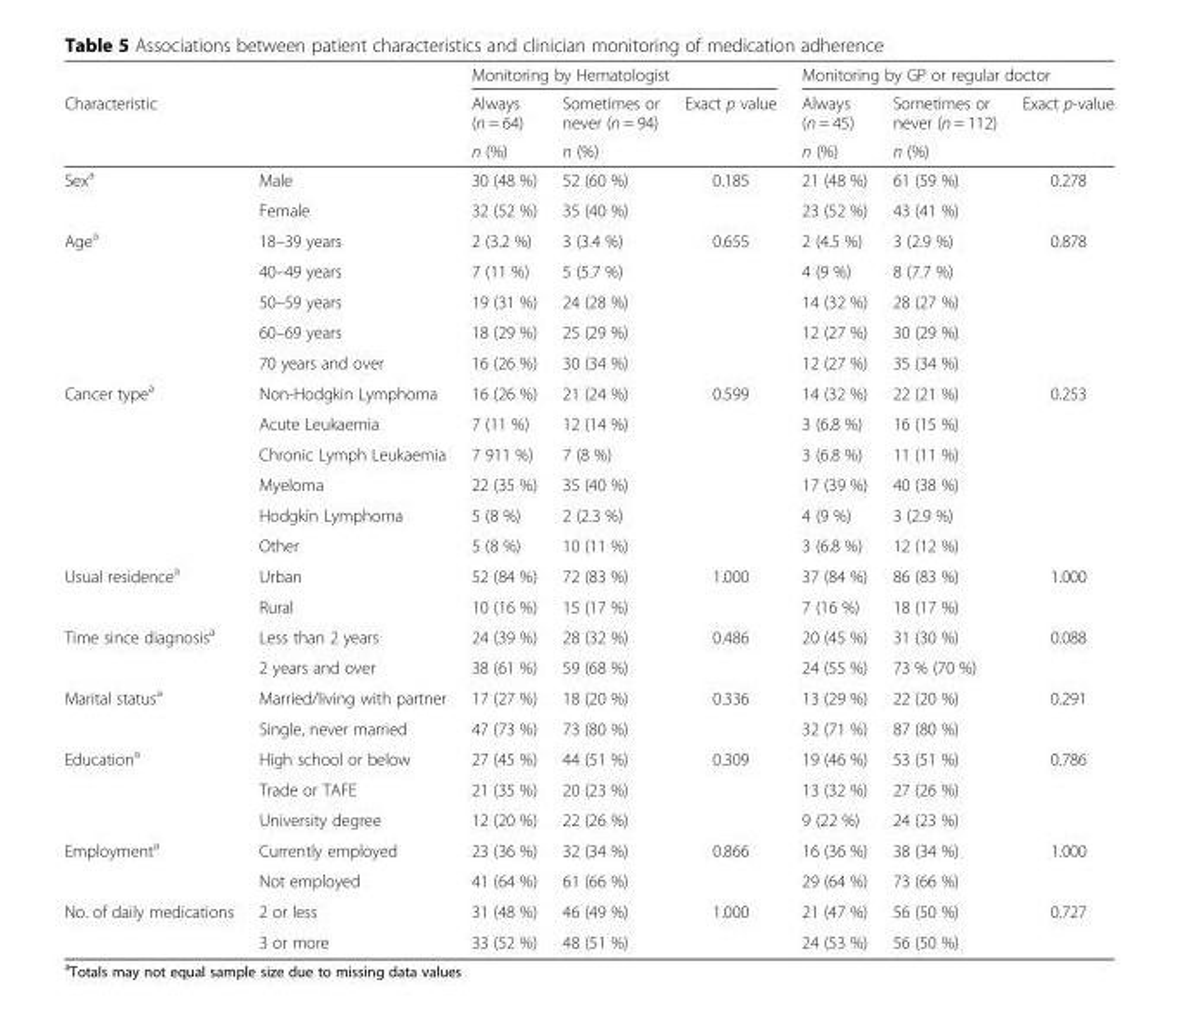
<table><thead><tr><td rowspan="3">Characteristic</td><td rowspan="3"></td><td colspan="3">Monitoring by Hematologist</td><td colspan="3">Monitoring by GP or regular doctor</td></tr><tr><td rowspan="2">Always (n = 64) n (%)</td><td rowspan="2">Sometimes or never (n = 94) n (%)</td><td rowspan="2">Exact p value</td><td rowspan="2">Always (n = 45) n (%)</td><td rowspan="2">Sometimes or never (n = 112) n (%)</td><td rowspan="2">Exact p-value</td></tr><tr></tr></thead><tbody><tr><td rowspan="2">Sex<sup>a</sup></td><td>Male</td><td>30 (48 %)</td><td>52 (60 %)</td><td>0.185</td><td>21 (48 %)</td><td>61 (59 %)</td><td>0.278</td></tr><tr><td>Female</td><td>32 (52 %)</td><td>35 (40 %)</td><td></td><td>23 (52 %)</td><td>43 (41 %)</td><td></td></tr><tr><td rowspan="5">Age<sup>a</sup></td><td>18–39 years</td><td>2 (3.2 %)</td><td>3 (3.4 %)</td><td>0.655</td><td>2 (4.5 %)</td><td>3 (2.9 %)</td><td>0.878</td></tr><tr><td>40–49 years</td><td>7 (11 %)</td><td>5 (5.7 %)</td><td></td><td>4 (9 %)</td><td>8 (7.7 %)</td><td></td></tr><tr><td>50–59 years</td><td>19 (31 %)</td><td>24 (28 %)</td><td></td><td>14 (32 %)</td><td>28 (27 %)</td><td></td></tr><tr><td>60–69 years</td><td>18 (29 %)</td><td>25 (29 %)</td><td></td><td>12 (27 %)</td><td>30 (29 %)</td><td></td></tr><tr><td>70 years and over</td><td>16 (26 %)</td><td>30 (34 %)</td><td></td><td>12 (27 %)</td><td>35 (34 %)</td><td></td></tr><tr><td rowspan="6">Cancer type<sup>a</sup></td><td>Non-Hodgkin Lymphoma</td><td>16 (26 %)</td><td>21 (24 %)</td><td>0.599</td><td>14 (32 %)</td><td>22 (21 %)</td><td>0.253</td></tr><tr><td>Acute Leukaemia</td><td>7 (11 %)</td><td>12 (14 %)</td><td></td><td>3 (6.8 %)</td><td>16 (15 %)</td><td></td></tr><tr><td>Chronic Lymph Leukaemia</td><td>7 911 %)</td><td>7 (8 %)</td><td></td><td>3 (6.8 %)</td><td>11 (11 %)</td><td></td></tr><tr><td>Myeloma</td><td>22 (35 %)</td><td>35 (40 %)</td><td></td><td>17 (39 %)</td><td>40 (38 %)</td><td></td></tr><tr><td>Hodgkin Lymphoma</td><td>5 (8 %)</td><td>2 (2.3 %)</td><td></td><td>4 (9 %)</td><td>3 (2.9 %)</td><td></td></tr><tr><td>Other</td><td>5 (8 %)</td><td>10 (11 %)</td><td></td><td>3 (6.8 %)</td><td>12 (12 %)</td><td></td></tr><tr><td rowspan="2">Usual residence<sup>a</sup></td><td>Urban</td><td>52 (84 %)</td><td>72 (83 %)</td><td>1.000</td><td>37 (84 %)</td><td>86 (83 %)</td><td>1.000</td></tr><tr><td>Rural</td><td>10 (16 %)</td><td>15 (17 %)</td><td></td><td>7 (16 %)</td><td>18 (17 %)</td><td></td></tr><tr><td rowspan="2">Time since diagnosis<sup>a</sup></td><td>Less than 2 years</td><td>24 (39 %)</td><td>28 (32 %)</td><td>0.486</td><td>20 (45 %)</td><td>31 (30 %)</td><td>0.088</td></tr><tr><td>2 years and over</td><td>38 (61 %)</td><td>59 (68 %)</td><td></td><td>24 (55 %)</td><td>73 % (70 %)</td><td></td></tr><tr><td rowspan="2">Marital status<sup>a</sup></td><td>Married/living with partner</td><td>17 (27 %)</td><td>18 (20 %)</td><td>0.336</td><td>13 (29 %)</td><td>22 (20 %)</td><td>0.291</td></tr><tr><td>Single, never married</td><td>47 (73 %)</td><td>73 (80 %)</td><td></td><td>32 (71 %)</td><td>87 (80 %)</td><td></td></tr><tr><td rowspan="3">Education<sup>a</sup></td><td>High school or below</td><td>27 (45 %)</td><td>44 (51 %)</td><td>0.309</td><td>19 (46 %)</td><td>53 (51 %)</td><td>0.786</td></tr><tr><td>Trade or TAFE</td><td>21 (35 %)</td><td>20 (23 %)</td><td></td><td>13 (32 %)</td><td>27 (26 %)</td><td></td></tr><tr><td>University degree</td><td>12 (20 %)</td><td>22 (26 %)</td><td></td><td>9 (22 %)</td><td>24 (23 %)</td><td></td></tr><tr><td rowspan="2">Employment<sup>a</sup></td><td>Currently employed</td><td>23 (36 %)</td><td>32 (34 %)</td><td>0.866</td><td>16 (36 %)</td><td>38 (34 %)</td><td>1.000</td></tr><tr><td>Not employed</td><td>41 (64 %)</td><td>61 (66 %)</td><td></td><td>29 (64 %)</td><td>73 (66 %)</td><td></td></tr><tr><td rowspan="2">No. of daily medications</td><td>2 or less</td><td>31 (48 %)</td><td>46 (49 %)</td><td>1.000</td><td>21 (47 %)</td><td>56 (50 %)</td><td>0.727</td></tr><tr><td>3 or more</td><td>33 (52 %)</td><td>48 (51 %)</td><td></td><td>24 (53 %)</td><td>56 (50 %)</td><td></td></tr></tbody></table>